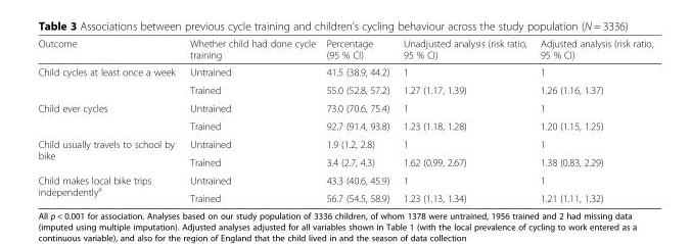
<table><thead><tr><td>Outcome</td><td>Whether child had done cycle training</td><td>Percentage (95 % CI)</td><td>Unadjusted analysis (risk ratio, 95 % CI)</td><td>Adjusted analysis (risk ratio, 95 % CI)</td></tr></thead><tbody><tr><td rowspan="2">Child cycles at least once a week</td><td>Untrained</td><td>41.5 (38.9, 44.2)</td><td>1</td><td>1</td></tr><tr><td>Trained</td><td>55.0 (52.8, 57.2)</td><td>1.27 (1.17, 1.39)</td><td>1.26 (1.16, 1.37)</td></tr><tr><td rowspan="2">Child ever cycles</td><td>Untrained</td><td>73.0 (70.6, 75.4)</td><td>1</td><td>1</td></tr><tr><td>Trained</td><td>92.7 (91.4, 93.8)</td><td>1.23 (1.18, 1.28)</td><td>1.20 (1.15, 1.25)</td></tr><tr><td rowspan="2">Child usually travels to school by bike</td><td>Untrained</td><td>1.9 (1.2, 2.8)</td><td>1</td><td>1</td></tr><tr><td>Trained</td><td>3.4 (2.7, 4.3)</td><td>1.62 (0.99, 2.67)</td><td>1.38 (0.83, 2.29)</td></tr><tr><td rowspan="2">Child makes local bike trips independently<sup>a</sup></td><td>Untrained</td><td>43.3 (40.6, 45.9)</td><td>1</td><td>1</td></tr><tr><td>Trained</td><td>56.7 (54.5, 58.9)</td><td>1.23 (1.13, 1.34)</td><td>1.21 (1.11, 1.32)</td></tr></tbody></table>